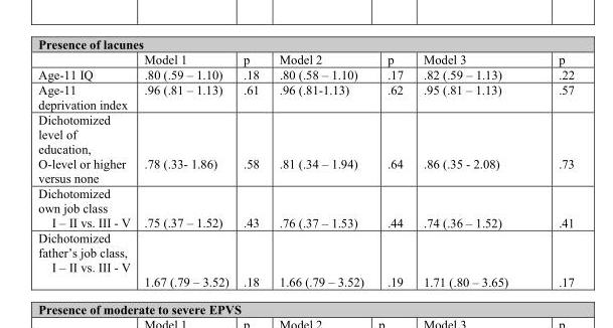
<table><thead><tr><td colspan="7">Presence of lacunes</td></tr><tr><td></td><td>Model 1</td><td>p</td><td>Model 2</td><td>p</td><td>Model 3</td><td>p</td></tr></thead><tbody><tr><td>Age-11 IQ</td><td>.80 (.59 – 1.10)</td><td>.18</td><td>.80 (.58 – 1.10)</td><td>.17</td><td>.82 (.59 – 1.13)</td><td>.22</td></tr><tr><td>Age-11 deprivation index</td><td>.96 (.81 – 1.13)</td><td>.61</td><td>.96 (.81-1.13)</td><td>.62</td><td>.95 (.81 – 1.13)</td><td>.57</td></tr><tr><td>Dichotomized level of education, O-level or higher versus none</td><td>.78 (.33- 1.86)</td><td>.58</td><td>.81 (.34 – 1.94)</td><td>.64</td><td>.86 (.35 - 2.08)</td><td>.73</td></tr><tr><td>Dichotomized own job class I – II vs. III - V</td><td>.75 (.37 – 1.52)</td><td>.43</td><td>.76 (.37 – 1.53)</td><td>.44</td><td>.74 (.36 – 1.52)</td><td>.41</td></tr><tr><td>Dichotomized father’s job class, I – II vs. III - V</td><td>1.67 (.79 – 3.52)</td><td>.18</td><td>1.66 (.79 – 3.52)</td><td>.19</td><td>1.71 (.80 – 3.65)</td><td>.17</td></tr></tbody></table>